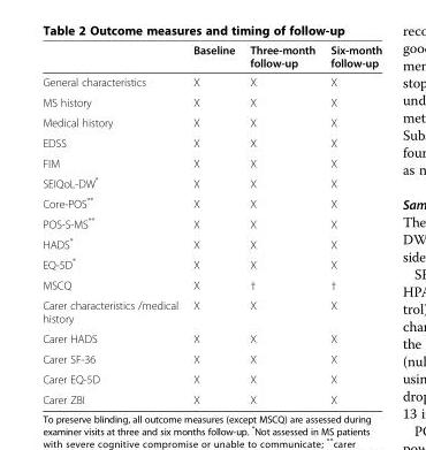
<table><thead><tr><td></td><td>Baseline</td><td>Three-month follow-up</td><td>Six-month follow-up</td></tr></thead><tbody><tr><td>General characteristics</td><td>X</td><td>X</td><td>X</td></tr><tr><td>MS history</td><td>X</td><td>X</td><td>X</td></tr><tr><td>Medical history</td><td>X</td><td>X</td><td>X</td></tr><tr><td>EDSS</td><td>X</td><td>X</td><td>X</td></tr><tr><td>FIM</td><td>X</td><td>X</td><td>X</td></tr><tr><td>SEIQoL-DW*</td><td>X</td><td>X</td><td>X</td></tr><tr><td>Core-POS**</td><td>X</td><td>X</td><td>X</td></tr><tr><td>POS-S-MS**</td><td>X</td><td>X</td><td>X</td></tr><tr><td>HADS*</td><td>X</td><td>X</td><td>X</td></tr><tr><td>EQ-5D*</td><td>X</td><td>X</td><td>X</td></tr><tr><td>MSCQ</td><td>X</td><td>†</td><td>†</td></tr><tr><td>Carer characteristics /medical history</td><td>X</td><td>X</td><td>X</td></tr><tr><td>Carer HADS</td><td>X</td><td>X</td><td>X</td></tr><tr><td>Carer SF-36</td><td>X</td><td>X</td><td>X</td></tr><tr><td>Carer EQ-5D</td><td>X</td><td>X</td><td>X</td></tr><tr><td>Carer ZBI</td><td>X</td><td>X</td><td>X</td></tr></tbody></table>